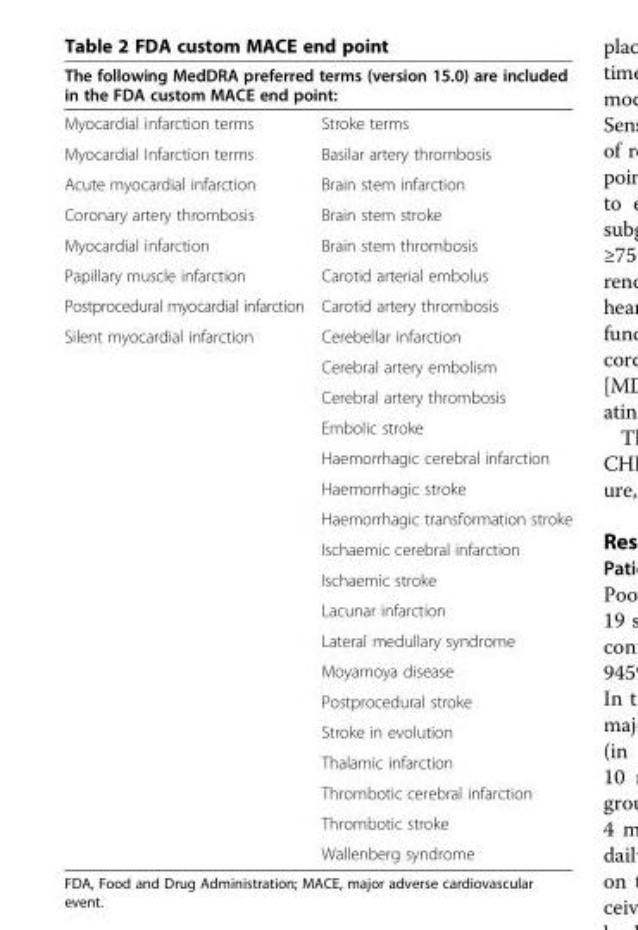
<table><thead><tr><td colspan="2">The following MedDRA preferred terms (version 15.0) are included in the FDA custom MACE end point:</td></tr><tr><td>Myocardial infarction terms</td><td>Stroke terms</td></tr></thead><tbody><tr><td>Myocardial Infarction terms</td><td>Basilar artery thrombosis</td></tr><tr><td>Acute myocardial infarction</td><td>Brain stem infarction</td></tr><tr><td>Coronary artery thrombosis</td><td>Brain stem stroke</td></tr><tr><td>Myocardial infarction</td><td>Brain stem thrombosis</td></tr><tr><td>Papillary muscle infarction</td><td>Carotid arterial embolus</td></tr><tr><td>Postprocedural myocardial infarction</td><td>Carotid artery thrombosis</td></tr><tr><td rowspan="18">Silent myocardial infarction</td><td>Cerebellar infarction</td></tr><tr><td>Cerebral artery embolism</td></tr><tr><td>Cerebral artery thrombosis</td></tr><tr><td>Embolic stroke</td></tr><tr><td>Haemorrhagic cerebral infarction</td></tr><tr><td>Haemorrhagic stroke</td></tr><tr><td>Haemorrhagic transformation stroke</td></tr><tr><td>Ischaemic cerebral infarction</td></tr><tr><td>Ischaemic stroke</td></tr><tr><td>Lacunar infarction</td></tr><tr><td>Lateral medullary syndrome</td></tr><tr><td>Moyamoya disease</td></tr><tr><td>Postprocedural stroke</td></tr><tr><td>Stroke in evolution</td></tr><tr><td>Thalamic infarction</td></tr><tr><td>Thrombotic cerebral infarction</td></tr><tr><td>Thrombotic stroke</td></tr><tr><td>Wallenberg syndrome</td></tr></tbody></table>